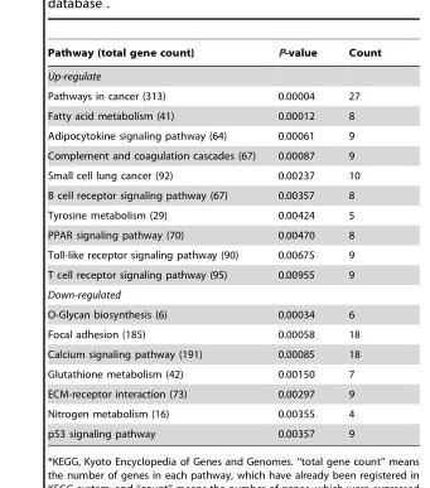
<table><thead><tr><td>Pathway (total gene count)</td><td>P-value</td><td>Count</td></tr></thead><tbody><tr><td colspan="3">Up-regulate</td></tr><tr><td>Pathways in cancer (313)</td><td>0.00004</td><td>27</td></tr><tr><td>Fatty acid metabolism (41)</td><td>0.00012</td><td>8</td></tr><tr><td>Adipocytokine signaling pathway (64)</td><td>0.00061</td><td>9</td></tr><tr><td>Complement and coagulation cascades (67)</td><td>0.00087</td><td>9</td></tr><tr><td>Small cell lung cancer (92)</td><td>0.00237</td><td>10</td></tr><tr><td>B cell receptor signaling pathway (67)</td><td>0.00357</td><td>8</td></tr><tr><td>Tyrosine metabolism (29)</td><td>0.00424</td><td>5</td></tr><tr><td>PPAR signaling pathway (70)</td><td>0.00470</td><td>8</td></tr><tr><td>Toll-like receptor signaling pathway (90)</td><td>0.00675</td><td>9</td></tr><tr><td>T cell receptor signaling pathway (95)</td><td>0.00955</td><td>9</td></tr><tr><td colspan="3">Down-regulated</td></tr><tr><td>O-Glycan biosynthesis (6)</td><td>0.00034</td><td>6</td></tr><tr><td>Focal adhesion (185)</td><td>0.00058</td><td>18</td></tr><tr><td>Calcium signaling pathway (191)</td><td>0.00085</td><td>18</td></tr><tr><td>Glutathione metabolism (42)</td><td>0.00150</td><td>7</td></tr><tr><td>ECM-receptor interaction (73)</td><td>0.00297</td><td>9</td></tr><tr><td>Nitrogen metabolism (16)</td><td>0.00355</td><td>4</td></tr><tr><td>p53 signaling pathway</td><td>0.00357</td><td>9</td></tr></tbody></table>